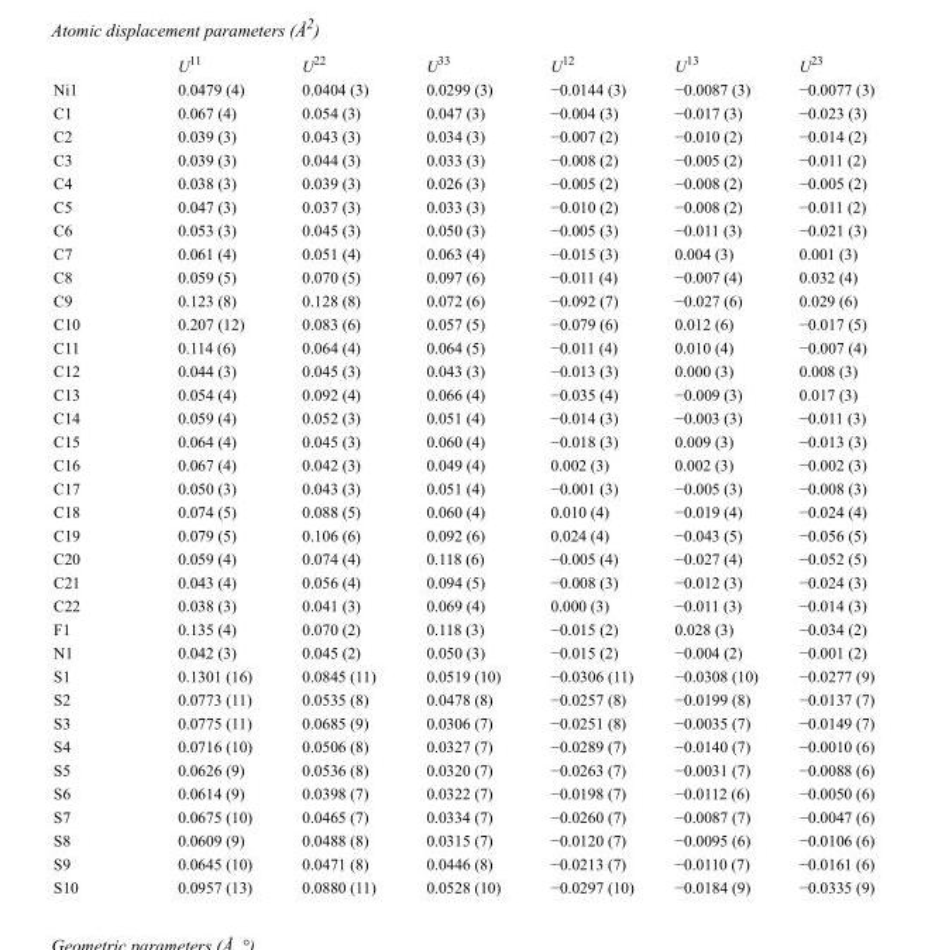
<table><thead><tr><td></td><td>U<sup>11</sup></td><td>U<sup>22</sup></td><td>U<sup>33</sup></td><td>U<sup>12</sup></td><td>U<sup>13</sup></td><td>U<sup>23</sup></td></tr></thead><tbody><tr><td>Ni1</td><td>0.0479 (4)</td><td>0.0404 (3)</td><td>0.0299 (3)</td><td>−0.0144 (3)</td><td>−0.0087 (3)</td><td>−0.0077 (3)</td></tr><tr><td>C1</td><td>0.067 (4)</td><td>0.054 (3)</td><td>0.047 (3)</td><td>−0.004 (3)</td><td>−0.017 (3)</td><td>−0.023 (3)</td></tr><tr><td>C2</td><td>0.039 (3)</td><td>0.043 (3)</td><td>0.034 (3)</td><td>−0.007 (2)</td><td>−0.010 (2)</td><td>−0.014 (2)</td></tr><tr><td>C3</td><td>0.039 (3)</td><td>0.044 (3)</td><td>0.033 (3)</td><td>−0.008 (2)</td><td>−0.005 (2)</td><td>−0.011 (2)</td></tr><tr><td>C4</td><td>0.038 (3)</td><td>0.039 (3)</td><td>0.026 (3)</td><td>−0.005 (2)</td><td>−0.008 (2)</td><td>−0.005 (2)</td></tr><tr><td>C5</td><td>0.047 (3)</td><td>0.037 (3)</td><td>0.033 (3)</td><td>−0.010 (2)</td><td>−0.008 (2)</td><td>−0.011 (2)</td></tr><tr><td>C6</td><td>0.053 (3)</td><td>0.045 (3)</td><td>0.050 (3)</td><td>−0.005 (3)</td><td>−0.011 (3)</td><td>−0.021 (3)</td></tr><tr><td>C7</td><td>0.061 (4)</td><td>0.051 (4)</td><td>0.063 (4)</td><td>−0.015 (3)</td><td>0.004 (3)</td><td>0.001 (3)</td></tr><tr><td>C8</td><td>0.059 (5)</td><td>0.070 (5)</td><td>0.097 (6)</td><td>−0.011 (4)</td><td>−0.007 (4)</td><td>0.032 (4)</td></tr><tr><td>C9</td><td>0.123 (8)</td><td>0.128 (8)</td><td>0.072 (6)</td><td>−0.092 (7)</td><td>−0.027 (6)</td><td>0.029 (6)</td></tr><tr><td>C10</td><td>0.207 (12)</td><td>0.083 (6)</td><td>0.057 (5)</td><td>−0.079 (6)</td><td>0.012 (6)</td><td>−0.017 (5)</td></tr><tr><td>C11</td><td>0.114 (6)</td><td>0.064 (4)</td><td>0.064 (5)</td><td>−0.011 (4)</td><td>0.010 (4)</td><td>−0.007 (4)</td></tr><tr><td>C12</td><td>0.044 (3)</td><td>0.045 (3)</td><td>0.043 (3)</td><td>−0.013 (3)</td><td>0.000 (3)</td><td>0.008 (3)</td></tr><tr><td>C13</td><td>0.054 (4)</td><td>0.092 (4)</td><td>0.066 (4)</td><td>−0.035 (4)</td><td>−0.009 (3)</td><td>0.017 (3)</td></tr><tr><td>C14</td><td>0.059 (4)</td><td>0.052 (3)</td><td>0.051 (4)</td><td>−0.014 (3)</td><td>−0.003 (3)</td><td>−0.011 (3)</td></tr><tr><td>C15</td><td>0.064 (4)</td><td>0.045 (3)</td><td>0.060 (4)</td><td>−0.018 (3)</td><td>0.009 (3)</td><td>−0.013 (3)</td></tr><tr><td>C16</td><td>0.067 (4)</td><td>0.042 (3)</td><td>0.049 (4)</td><td>0.002 (3)</td><td>0.002 (3)</td><td>−0.002 (3)</td></tr><tr><td>C17</td><td>0.050 (3)</td><td>0.043 (3)</td><td>0.051 (4)</td><td>−0.001 (3)</td><td>−0.005 (3)</td><td>−0.008 (3)</td></tr><tr><td>C18</td><td>0.074 (5)</td><td>0.088 (5)</td><td>0.060 (4)</td><td>0.010 (4)</td><td>−0.019 (4)</td><td>−0.024 (4)</td></tr><tr><td>C19</td><td>0.079 (5)</td><td>0.106 (6)</td><td>0.092 (6)</td><td>0.024 (4)</td><td>−0.043 (5)</td><td>−0.056 (5)</td></tr><tr><td>C20</td><td>0.059 (4)</td><td>0.074 (4)</td><td>0.118 (6)</td><td>−0.005 (4)</td><td>−0.027 (4)</td><td>−0.052 (5)</td></tr><tr><td>C21</td><td>0.043 (4)</td><td>0.056 (4)</td><td>0.094 (5)</td><td>−0.008 (3)</td><td>−0.012 (3)</td><td>−0.024 (3)</td></tr><tr><td>C22</td><td>0.038 (3)</td><td>0.041 (3)</td><td>0.069 (4)</td><td>0.000 (3)</td><td>−0.011 (3)</td><td>−0.014 (3)</td></tr><tr><td>F1</td><td>0.135 (4)</td><td>0.070 (2)</td><td>0.118 (3)</td><td>−0.015 (2)</td><td>0.028 (3)</td><td>−0.034 (2)</td></tr><tr><td>N1</td><td>0.042 (3)</td><td>0.045 (2)</td><td>0.050 (3)</td><td>−0.015 (2)</td><td>−0.004 (2)</td><td>−0.001 (2)</td></tr><tr><td>S1</td><td>0.1301 (16)</td><td>0.0845 (11)</td><td>0.0519 (10)</td><td>−0.0306 (11)</td><td>−0.0308 (10)</td><td>−0.0277 (9)</td></tr><tr><td>S2</td><td>0.0773 (11)</td><td>0.0535 (8)</td><td>0.0478 (8)</td><td>−0.0257 (8)</td><td>−0.0199 (8)</td><td>−0.0137 (7)</td></tr><tr><td>S3</td><td>0.0775 (11)</td><td>0.0685 (9)</td><td>0.0306 (7)</td><td>−0.0251 (8)</td><td>−0.0035 (7)</td><td>−0.0149 (7)</td></tr><tr><td>S4</td><td>0.0716 (10)</td><td>0.0506 (8)</td><td>0.0327 (7)</td><td>−0.0289 (7)</td><td>−0.0140 (7)</td><td>−0.0010 (6)</td></tr><tr><td>S5</td><td>0.0626 (9)</td><td>0.0536 (8)</td><td>0.0320 (7)</td><td>−0.0263 (7)</td><td>−0.0031 (7)</td><td>−0.0088 (6)</td></tr><tr><td>S6</td><td>0.0614 (9)</td><td>0.0398 (7)</td><td>0.0322 (7)</td><td>−0.0198 (7)</td><td>−0.0112 (6)</td><td>−0.0050 (6)</td></tr><tr><td>S7</td><td>0.0675 (10)</td><td>0.0465 (7)</td><td>0.0334 (7)</td><td>−0.0260 (7)</td><td>−0.0087 (7)</td><td>−0.0047 (6)</td></tr><tr><td>S8</td><td>0.0609 (9)</td><td>0.0488 (8)</td><td>0.0315 (7)</td><td>−0.0120 (7)</td><td>−0.0095 (6)</td><td>−0.0106 (6)</td></tr><tr><td>S9</td><td>0.0645 (10)</td><td>0.0471 (8)</td><td>0.0446 (8)</td><td>−0.0213 (7)</td><td>−0.0110 (7)</td><td>−0.0161 (6)</td></tr><tr><td>S10</td><td>0.0957 (13)</td><td>0.0880 (11)</td><td>0.0528 (10)</td><td>−0.0297 (10)</td><td>−0.0184 (9)</td><td>−0.0335 (9)</td></tr></tbody></table>